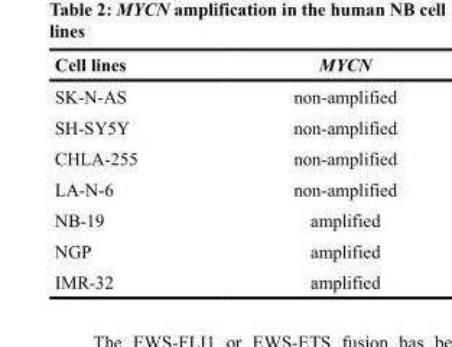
<table><thead><tr><td>Cell lines</td><td>MYCN</td></tr></thead><tbody><tr><td>SK-N-AS</td><td>non-amplified</td></tr><tr><td>SH-SY5Y</td><td>non-amplified</td></tr><tr><td>CHLA-255</td><td>non-amplified</td></tr><tr><td>LA-N-6</td><td>non-amplified</td></tr><tr><td>NB-19</td><td>amplified</td></tr><tr><td>NGP</td><td>amplified</td></tr><tr><td>IMR-32</td><td>amplified</td></tr></tbody></table>